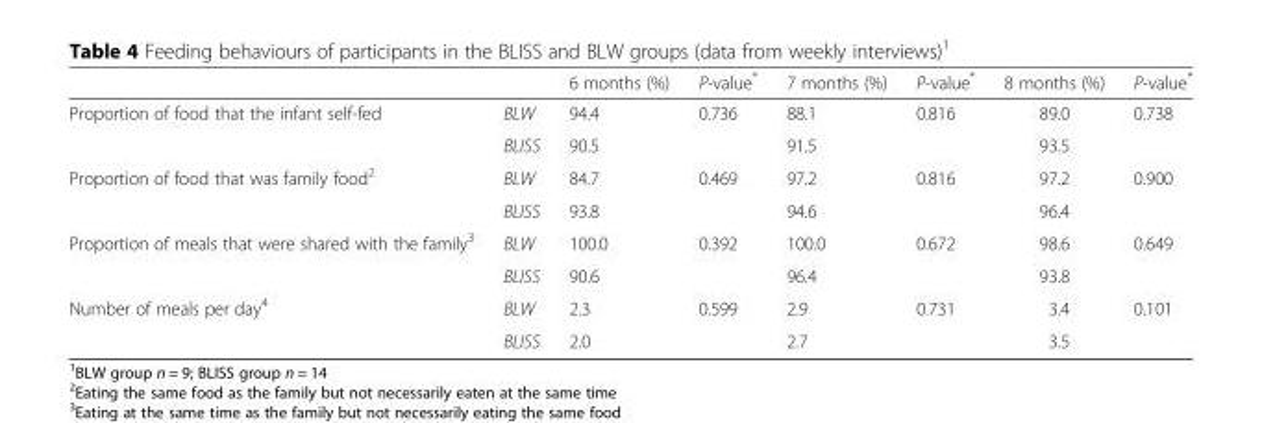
<table><thead><tr><td></td><td></td><td>6 months (%)</td><td>P-value*</td><td>7 months (%)</td><td>P-value*</td><td>8 months (%)</td><td>P-value*</td></tr></thead><tbody><tr><td rowspan="2">Proportion of food that the infant self-fed</td><td>BLW</td><td>94.4</td><td rowspan="2">0.736</td><td>88.1</td><td rowspan="2">0.816</td><td>89.0</td><td rowspan="2">0.738</td></tr><tr><td>BLISS</td><td>90.5</td><td>91.5</td><td>93.5</td></tr><tr><td rowspan="2">Proportion of food that was family food<sup>2</sup></td><td>BLW</td><td>84.7</td><td rowspan="2">0.469</td><td>97.2</td><td rowspan="2">0.816</td><td>97.2</td><td rowspan="2">0.900</td></tr><tr><td>BLISS</td><td>93.8</td><td>94.6</td><td>96.4</td></tr><tr><td rowspan="2">Proportion of meals that were shared with the family<sup>3</sup></td><td>BLW</td><td>100.0</td><td rowspan="2">0.392</td><td>100.0</td><td rowspan="2">0.672</td><td>98.6</td><td rowspan="2">0.649</td></tr><tr><td>BLISS</td><td>90.6</td><td>96.4</td><td>93.8</td></tr><tr><td rowspan="2">Number of meals per day<sup>4</sup></td><td>BLW</td><td>2.3</td><td rowspan="2">0.599</td><td>2.9</td><td rowspan="2">0.731</td><td>3.4</td><td rowspan="2">0.101</td></tr><tr><td>BLISS</td><td>2.0</td><td>2.7</td><td>3.5</td></tr></tbody></table>